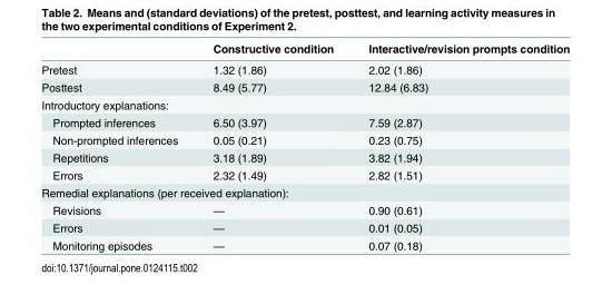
<table><thead><tr><td></td><td>Constructive condition</td><td>Interactive/revision prompts condition</td></tr></thead><tbody><tr><td>Pretest</td><td>1.32 (1.86)</td><td>2.02 (1.86)</td></tr><tr><td>Posttest</td><td>8.49 (5.77)</td><td>12.84 (6.83)</td></tr><tr><td colspan="3">Introductory explanations:</td></tr><tr><td>Prompted inferences</td><td>6.50 (3.97)</td><td>7.59 (2.87)</td></tr><tr><td>Non-prompted inferences</td><td>0.05 (0.21)</td><td>0.23 (0.75)</td></tr><tr><td>Repetitions</td><td>3.18 (1.89)</td><td>3.82 (1.94)</td></tr><tr><td>Errors</td><td>2.32 (1.49)</td><td>2.82 (1.51)</td></tr><tr><td colspan="3">Remedial explanations (per received explanation):</td></tr><tr><td>Revisions</td><td>—</td><td>0.90 (0.61)</td></tr><tr><td>Errors</td><td>—</td><td>0.01 (0.05)</td></tr><tr><td>Monitoring episodes</td><td>—</td><td>0.07 (0.18)</td></tr></tbody></table>